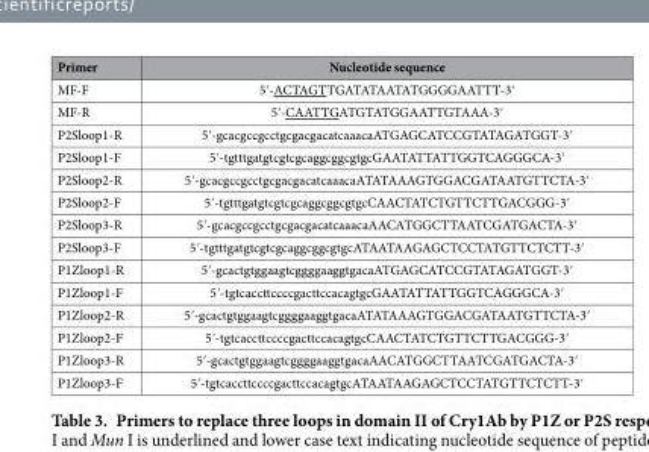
<table><thead><tr><td>Primer</td><td>Nucleotide sequence</td></tr></thead><tbody><tr><td>MF-F</td><td>5′-ACTAGTTGATATAATATGGGGAATTT-3′</td></tr><tr><td>MF-R</td><td>5′-CAATTGATGTATGGAATTGTAAA-3′</td></tr><tr><td>P2Sloop1-R</td><td>5′-gcacgccgcctgcgacgacatcaaacaATGAGCATCCGTATAGATGGT-3′</td></tr><tr><td>P2Sloop1-F</td><td>5′-tgtttgatgtcgtcgcaggcggcgtgcGAATATTATTGGTCAGGGCA-3′</td></tr><tr><td>P2Sloop2-R</td><td>5′-gcacgccgcctgcgacgacatcaaacaATATAAAGTGGACGATAATGTTCTA-3′</td></tr><tr><td>P2Sloop2-F</td><td>5′-tgtttgatgtcgtcgcaggcggcgtgcCAACTATCTGTTCTTGACGGG-3′</td></tr><tr><td>P2Sloop3-R</td><td>5′-gcacgccgcctgcgacgacatcaaacaAACATGGCTTAATCGATGACTA-3′</td></tr><tr><td>P2Sloop3-F</td><td>5′-tgtttgatgtcgtcgcaggcggcgtgcATAATAAGAGCTCCTATGTTCTCTT-3′</td></tr><tr><td>P1Zloop1-R</td><td>5′-gcactgtggaagtcggggaaggtgacaATGAGCATCCGTATAGATGGT-3′</td></tr><tr><td>P1Zloop1-F</td><td>5′-tgtcaccttccccgacttccacagtgcGAATATTATTGGTCAGGGCA-3′</td></tr><tr><td>P1Zloop2-R</td><td>5′-gcactgtggaagtcggggaaggtgacaATATAAAGTGGACGATAATGTTCTA-3′</td></tr><tr><td>P1Zloop2-F</td><td>5′-tgtcaccttccccgacttccacagtgcCAACTATCTGTTCTTGACGGG-3′</td></tr><tr><td>P1Zloop3-R</td><td>5′-gcactgtggaagtcggggaaggtgacaAACATGGCTTAATCGATGACTA-3′</td></tr><tr><td>P1Zloop3-F</td><td>5′-tgtcaccttccccgacttccacagtgcATAATAAGAGCTCCTATGTTCTCTT-3′</td></tr></tbody></table>